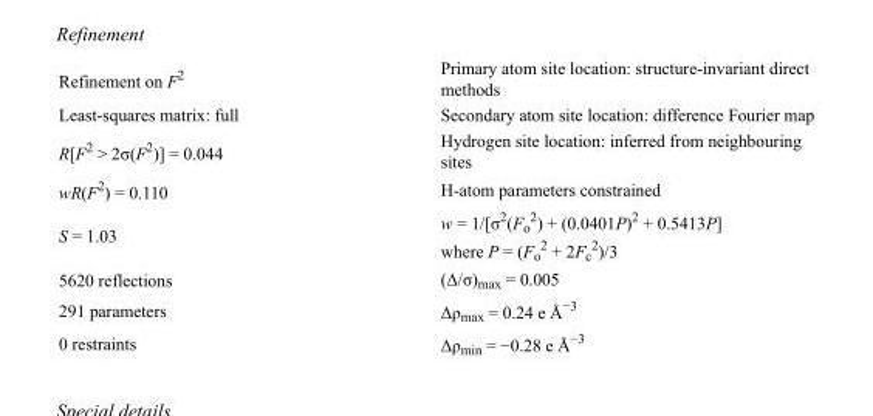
<table><tbody><tr><td>Refinement on F<sup>2</sup></td><td>Primary atom site location: structure-invariant direct methods</td></tr><tr><td>Least-squares matrix: full</td><td>Secondary atom site location: difference Fourier map</td></tr><tr><td>R[F<sup>2</sup> &gt; 2σ(F<sup>2</sup>)] = 0.044</td><td>Hydrogen site location: inferred from neighbouring sites</td></tr><tr><td>wR(F<sup>2</sup>) = 0.110</td><td>H-atom parameters constrained</td></tr><tr><td>S = 1.03</td><td>w = 1/[σ<sup>2</sup>(F<sub>o</sub> <sup>2</sup>) + (0.0401P)<sup>2</sup> + 0.5413P] where P = (F<sub>o</sub> <sup>2</sup> + 2F<sub>c</sub> <sup>2</sup>)/3</td></tr><tr><td>5620 reflections</td><td>(Δ/σ)<sub>max</sub> = 0.005</td></tr><tr><td>291 parameters</td><td>Δρ<sub>max</sub> = 0.24 e Å<sup>−3</sup></td></tr><tr><td>0 restraints</td><td>Δρ<sub>min</sub> = −0.28 e Å<sup>−3</sup></td></tr></tbody></table>